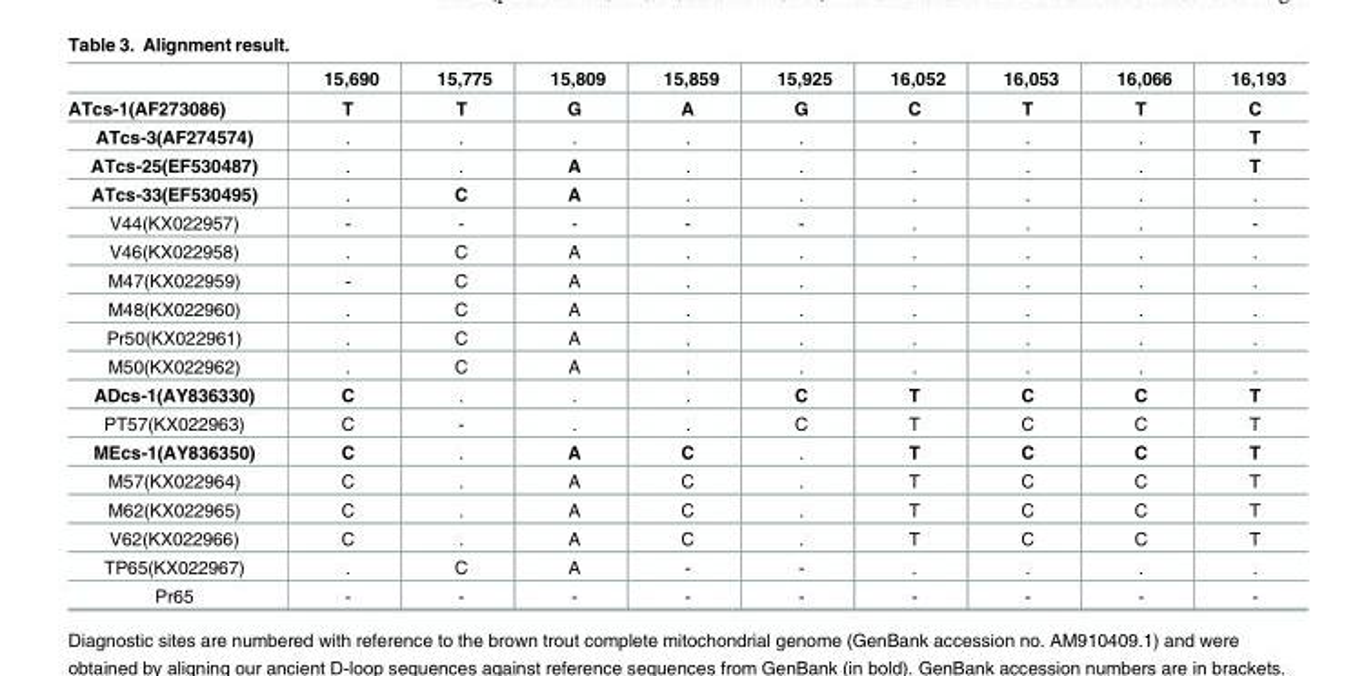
<table><thead><tr><td></td><td>15,690</td><td>15,775</td><td>15,809</td><td>15,859</td><td>15,925</td><td>16,052</td><td>16,053</td><td>16,066</td><td>16,193</td></tr></thead><tbody><tr><td>ATcs-1(AF273086)</td><td>T</td><td>T</td><td>G</td><td>A</td><td>G</td><td>C</td><td>T</td><td>T</td><td>C</td></tr><tr><td>ATcs-3(AF274574)</td><td>.</td><td>.</td><td>.</td><td>.</td><td>.</td><td>.</td><td>.</td><td>.</td><td>T</td></tr><tr><td>ATcs-25(EF530487)</td><td>.</td><td>.</td><td>A</td><td>.</td><td>.</td><td>.</td><td>.</td><td>.</td><td>T</td></tr><tr><td>ATcs-33(EF530495)</td><td>.</td><td>C</td><td>A</td><td>.</td><td>.</td><td>.</td><td>.</td><td>.</td><td>.</td></tr><tr><td>V44(KX022957)</td><td>-</td><td>-</td><td>-</td><td>-</td><td>-</td><td>.</td><td>.</td><td>.</td><td>-</td></tr><tr><td>V46(KX022958)</td><td>.</td><td>C</td><td>A</td><td>.</td><td>.</td><td>.</td><td>.</td><td>.</td><td>.</td></tr><tr><td>M47(KX022959)</td><td>-</td><td>C</td><td>A</td><td>.</td><td>.</td><td>.</td><td>.</td><td>.</td><td>.</td></tr><tr><td>M48(KX022960)</td><td>.</td><td>C</td><td>A</td><td>.</td><td>.</td><td>.</td><td>.</td><td>.</td><td>.</td></tr><tr><td>Pr50(KX022961)</td><td>.</td><td>C</td><td>A</td><td>.</td><td>.</td><td>.</td><td>.</td><td>.</td><td>.</td></tr><tr><td>M50(KX022962)</td><td>.</td><td>C</td><td>A</td><td>.</td><td>.</td><td>.</td><td>.</td><td>.</td><td>.</td></tr><tr><td>ADcs-1(AY836330)</td><td>C</td><td>.</td><td>.</td><td>.</td><td>C</td><td>T</td><td>C</td><td>C</td><td>T</td></tr><tr><td>PT57(KX022963)</td><td>C</td><td>-</td><td>.</td><td>.</td><td>C</td><td>T</td><td>C</td><td>C</td><td>T</td></tr><tr><td>MEcs-1(AY836350)</td><td>C</td><td>.</td><td>A</td><td>C</td><td>.</td><td>T</td><td>C</td><td>C</td><td>T</td></tr><tr><td>M57(KX022964)</td><td>C</td><td>.</td><td>A</td><td>C</td><td>.</td><td>T</td><td>C</td><td>C</td><td>T</td></tr><tr><td>M62(KX022965)</td><td>C</td><td>.</td><td>A</td><td>C</td><td>.</td><td>T</td><td>C</td><td>C</td><td>T</td></tr><tr><td>V62(KX022966)</td><td>C</td><td>.</td><td>A</td><td>C</td><td>.</td><td>T</td><td>C</td><td>C</td><td>T</td></tr><tr><td>TP65(KX022967)</td><td>.</td><td>C</td><td>A</td><td>-</td><td>-</td><td>.</td><td>.</td><td>.</td><td>.</td></tr><tr><td>Pr65</td><td>-</td><td>-</td><td>-</td><td>-</td><td>-</td><td>-</td><td>-</td><td>-</td><td>-</td></tr></tbody></table>